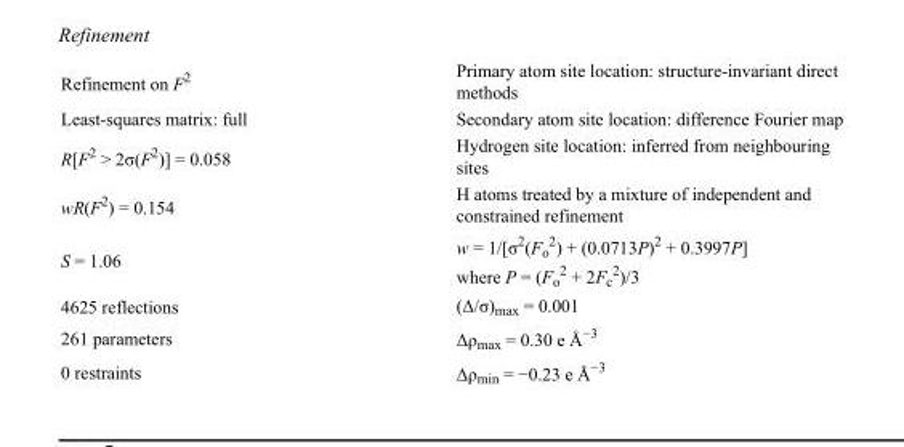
<table><tbody><tr><td>Refinement on F<sup>2</sup></td><td>Primary atom site location: structure-invariant direct methods</td></tr><tr><td>Least-squares matrix: full</td><td>Secondary atom site location: difference Fourier map</td></tr><tr><td>R[F<sup>2</sup> &gt; 2σ(F<sup>2</sup>)] = 0.058</td><td>Hydrogen site location: inferred from neighbouring sites</td></tr><tr><td>wR(F<sup>2</sup>) = 0.154</td><td>H atoms treated by a mixture of independent and constrained refinement</td></tr><tr><td>S = 1.06</td><td>w = 1/[σ<sup>2</sup>(F<sub>o</sub> <sup>2</sup>) + (0.0713P)<sup>2</sup> + 0.3997P] where P = (F<sub>o</sub> <sup>2</sup> + 2F<sub>c</sub> <sup>2</sup>)/3</td></tr><tr><td>4625 reflections</td><td>(Δ/σ)<sub>max</sub> = 0.001</td></tr><tr><td>261 parameters</td><td>Δρ<sub>max</sub> = 0.30 e Å<sup>−3</sup></td></tr><tr><td>0 restraints</td><td>Δρ<sub>min</sub> = −0.23 e Å<sup>−3</sup></td></tr></tbody></table>